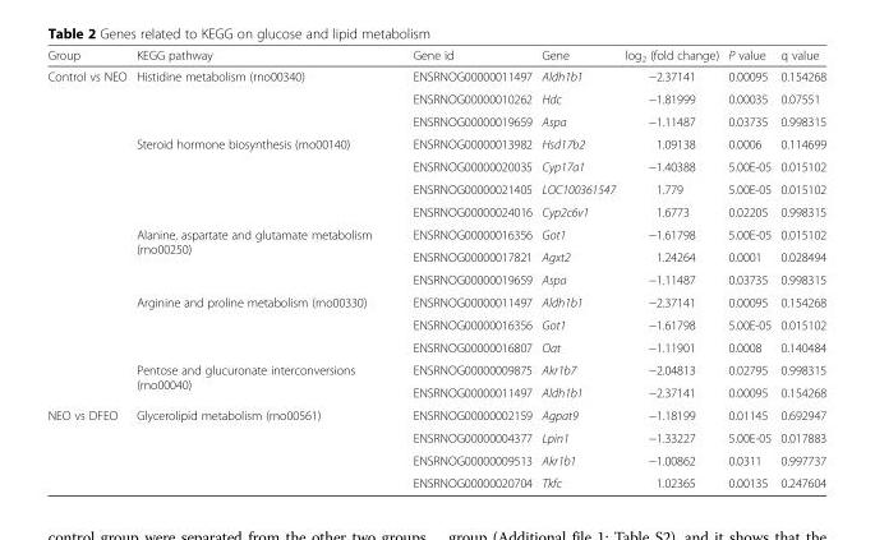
<table><thead><tr><td>Group</td><td>KEGG pathway</td><td>Gene id</td><td>Gene</td><td>log<sub>2</sub> (fold change)</td><td>P value</td><td>q value</td></tr></thead><tbody><tr><td rowspan="15">Control vs NEO</td><td rowspan="3">Histidine metabolism (rno00340)</td><td>ENSRNOG00000011497</td><td>Aldh1b1</td><td>−2.37141</td><td>0.00095</td><td>0.154268</td></tr><tr><td>ENSRNOG00000010262</td><td>Hdc</td><td>−1.81999</td><td>0.00035</td><td>0.07551</td></tr><tr><td>ENSRNOG00000019659</td><td>Aspa</td><td>−1.11487</td><td>0.03735</td><td>0.998315</td></tr><tr><td rowspan="4">Steroid hormone biosynthesis (rno00140)</td><td>ENSRNOG00000013982</td><td>Hsd17b2</td><td>1.09138</td><td>0.0006</td><td>0.114699</td></tr><tr><td>ENSRNOG00000020035</td><td>Cyp17a1</td><td>−1.40388</td><td>5.00E-05</td><td>0.015102</td></tr><tr><td>ENSRNOG00000021405</td><td>LOC100361547</td><td>1.779</td><td>5.00E-05</td><td>0.015102</td></tr><tr><td>ENSRNOG00000024016</td><td>Cyp2c6v1</td><td>1.6773</td><td>0.02205</td><td>0.998315</td></tr><tr><td rowspan="3">Alanine, aspartate and glutamate metabolism (rno00250)</td><td>ENSRNOG00000016356</td><td>Got1</td><td>−1.61798</td><td>5.00E-05</td><td>0.015102</td></tr><tr><td>ENSRNOG00000017821</td><td>Agxt2</td><td>1.24264</td><td>0.0001</td><td>0.028494</td></tr><tr><td>ENSRNOG00000019659</td><td>Aspa</td><td>−1.11487</td><td>0.03735</td><td>0.998315</td></tr><tr><td rowspan="3">Arginine and proline metabolism (rno00330)</td><td>ENSRNOG00000011497</td><td>Aldh1b1</td><td>−2.37141</td><td>0.00095</td><td>0.154268</td></tr><tr><td>ENSRNOG00000016356</td><td>Got1</td><td>−1.61798</td><td>5.00E-05</td><td>0.015102</td></tr><tr><td>ENSRNOG00000016807</td><td>Oat</td><td>−1.11901</td><td>0.0008</td><td>0.140484</td></tr><tr><td rowspan="2">Pentose and glucuronate interconversions (rno00040)</td><td>ENSRNOG00000009875</td><td>Akr1b7</td><td>−2.04813</td><td>0.02795</td><td>0.998315</td></tr><tr><td>ENSRNOG00000011497</td><td>Aldh1b1</td><td>−2.37141</td><td>0.00095</td><td>0.154268</td></tr><tr><td rowspan="4">NEO vs DFEO</td><td rowspan="4">Glycerolipid metabolism (rno00561)</td><td>ENSRNOG00000002159</td><td>Agpat9</td><td>−1.18199</td><td>0.01145</td><td>0.692947</td></tr><tr><td>ENSRNOG00000004377</td><td>Lpin1</td><td>−1.33227</td><td>5.00E-05</td><td>0.017883</td></tr><tr><td>ENSRNOG00000009513</td><td>Akr1b1</td><td>−1.00862</td><td>0.0311</td><td>0.997737</td></tr><tr><td>ENSRNOG00000020704</td><td>Tkfc</td><td>1.02365</td><td>0.00135</td><td>0.247604</td></tr></tbody></table>